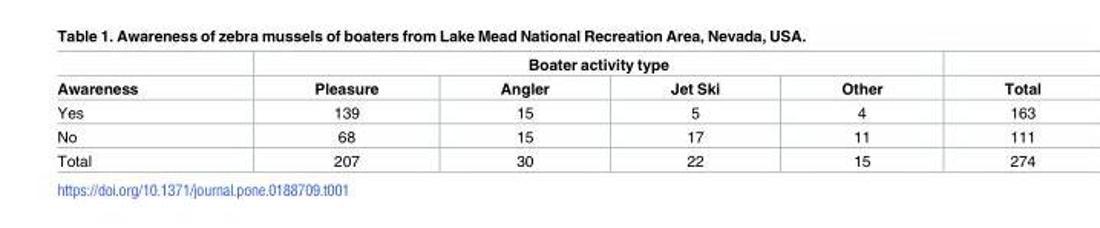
<table><thead><tr><td rowspan="2">Awareness</td><td colspan="4">Boater activity type</td><td rowspan="2">Total</td></tr><tr><td>Pleasure</td><td>Angler</td><td>Jet Ski</td><td>Other</td></tr></thead><tbody><tr><td>Yes</td><td>139</td><td>15</td><td>5</td><td>4</td><td>163</td></tr><tr><td>No</td><td>68</td><td>15</td><td>17</td><td>11</td><td>111</td></tr><tr><td>Total</td><td>207</td><td>30</td><td>22</td><td>15</td><td>274</td></tr></tbody></table>